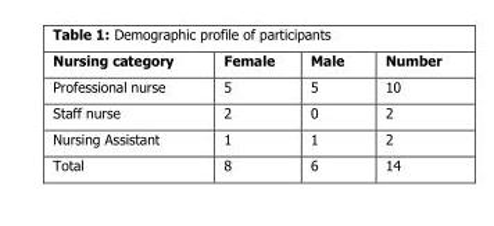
<table><thead><tr><td>Nursing category</td><td>Female</td><td>Male</td><td>Number</td></tr></thead><tbody><tr><td>Professional nurse</td><td>5</td><td>5</td><td>10</td></tr><tr><td>Staff nurse</td><td>2</td><td>0</td><td>2</td></tr><tr><td>Nursing Assistant</td><td>1</td><td>1</td><td>2</td></tr><tr><td>Total</td><td>8</td><td>6</td><td>14</td></tr></tbody></table>